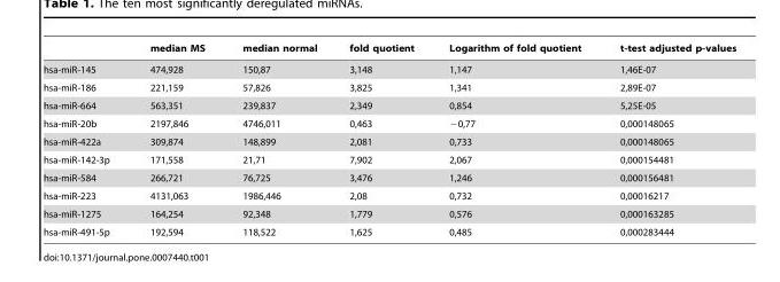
<table><thead><tr><td></td><td>median MS</td><td>median normal</td><td>fold quotient</td><td>Logarithm of fold quotient</td><td>t-test adjusted p-values</td></tr></thead><tbody><tr><td>hsa-miR-145</td><td>474,928</td><td>150,87</td><td>3,148</td><td>1,147</td><td>1,46E-07</td></tr><tr><td>hsa-miR-186</td><td>221,159</td><td>57,826</td><td>3,825</td><td>1,341</td><td>2,89E-07</td></tr><tr><td>hsa-miR-664</td><td>563,351</td><td>239,837</td><td>2,349</td><td>0,854</td><td>5,25E-05</td></tr><tr><td>hsa-miR-20b</td><td>2197,846</td><td>4746,011</td><td>0,463</td><td>−0,77</td><td>0,000148065</td></tr><tr><td>hsa-miR-422a</td><td>309,874</td><td>148,899</td><td>2,081</td><td>0,733</td><td>0,000148065</td></tr><tr><td>hsa-miR-142-3p</td><td>171,558</td><td>21,71</td><td>7,902</td><td>2,067</td><td>0,000154481</td></tr><tr><td>hsa-miR-584</td><td>266,721</td><td>76,725</td><td>3,476</td><td>1,246</td><td>0,000156481</td></tr><tr><td>hsa-miR-223</td><td>4131,063</td><td>1986,446</td><td>2,08</td><td>0,732</td><td>0,00016217</td></tr><tr><td>hsa-miR-1275</td><td>164,254</td><td>92,348</td><td>1,779</td><td>0,576</td><td>0,000163285</td></tr><tr><td>hsa-miR-491-5p</td><td>192,594</td><td>118,522</td><td>1,625</td><td>0,485</td><td>0,000283444</td></tr></tbody></table>